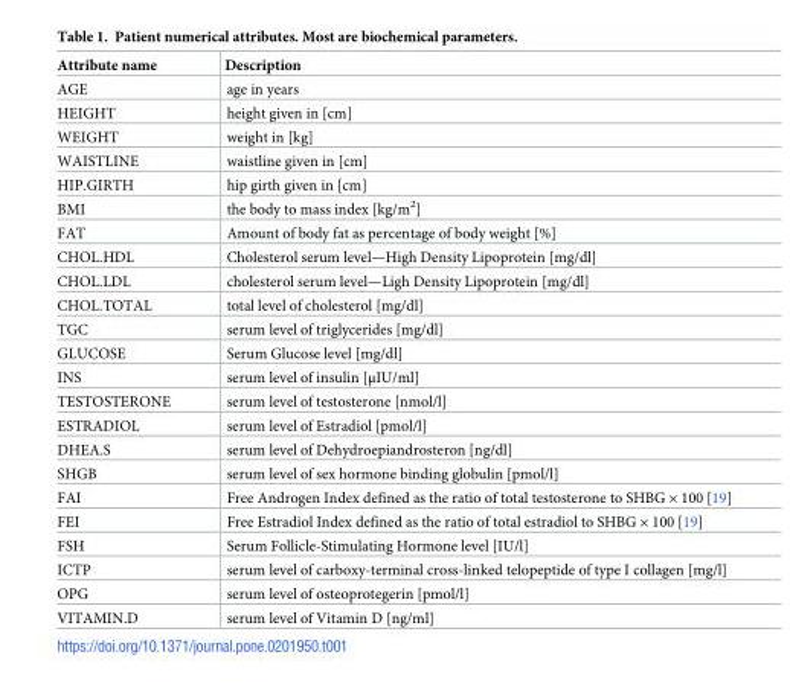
<table><thead><tr><td>Attribute name</td><td>Description</td></tr></thead><tbody><tr><td>AGE</td><td>age in years</td></tr><tr><td>HEIGHT</td><td>height given in [cm]</td></tr><tr><td>WEIGHT</td><td>weight in [kg]</td></tr><tr><td>WAISTLINE</td><td>waistline given in [cm]</td></tr><tr><td>HIP.GIRTH</td><td>hip girth given in [cm]</td></tr><tr><td>BMI</td><td>the body to mass index [kg/m<sup>2</sup>]</td></tr><tr><td>FAT</td><td>Amount of body fat as percentage of body weight [%]</td></tr><tr><td>CHOL.HDL</td><td>Cholesterol serum level—High Density Lipoprotein [mg/dl]</td></tr><tr><td>CHOL.LDL</td><td>cholesterol serum level—Ligh Density Lipoprotein [mg/dl]</td></tr><tr><td>CHOL.TOTAL</td><td>total level of cholesterol [mg/dl]</td></tr><tr><td>TGC</td><td>serum level of triglycerides [mg/dl]</td></tr><tr><td>GLUCOSE</td><td>Serum Glucose level [mg/dl]</td></tr><tr><td>INS</td><td>serum level of insulin [μIU/ml]</td></tr><tr><td>TESTOSTERONE</td><td>serum level of testosterone [nmol/l]</td></tr><tr><td>ESTRADIOL</td><td>serum level of Estradiol [pmol/l]</td></tr><tr><td>DHEA.S</td><td>serum level of Dehydroepiandrosteron [ng/dl]</td></tr><tr><td>SHGB</td><td>serum level of sex hormone binding globulin [pmol/l]</td></tr><tr><td>FAI</td><td>Free Androgen Index defined as the ratio of total testosterone to SHBG × 100 [19]</td></tr><tr><td>FEI</td><td>Free Estradiol Index defined as the ratio of total estradiol to SHBG × 100 [19]</td></tr><tr><td>FSH</td><td>Serum Follicle-Stimulating Hormone level [IU/l]</td></tr><tr><td>ICTP</td><td>serum level of carboxy-terminal cross-linked telopeptide of type I collagen [mg/l]</td></tr><tr><td>OPG</td><td>serum level of osteoprotegerin [pmol/l]</td></tr><tr><td>VITAMIN.D</td><td>serum level of Vitamin D [ng/ml]</td></tr></tbody></table>